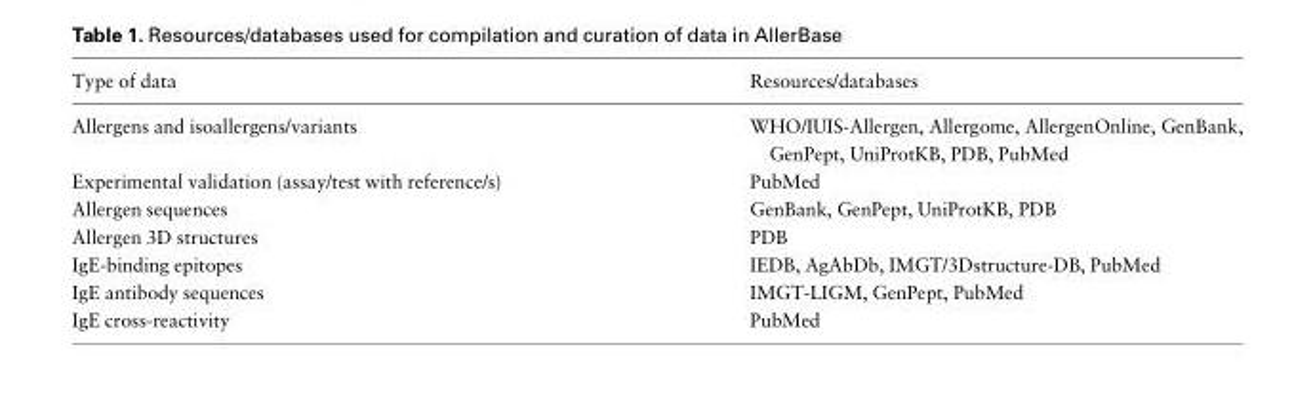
<table><thead><tr><td>Type of data</td><td>Resources/databases</td></tr></thead><tbody><tr><td>Allergens and isoallergens/variants</td><td>WHO/IUIS-Allergen, Allergome, AllergenOnline, GenBank, GenPept, UniProtKB, PDB, PubMed</td></tr><tr><td>Experimental validation (assay/test with reference/s)</td><td>PubMed</td></tr><tr><td>Allergen sequences</td><td>GenBank, GenPept, UniProtKB, PDB</td></tr><tr><td>Allergen 3D structures</td><td>PDB</td></tr><tr><td>IgE-binding epitopes</td><td>IEDB, AgAbDb, IMGT/3Dstructure-DB, PubMed</td></tr><tr><td>IgE antibody sequences</td><td>IMGT-LIGM, GenPept, PubMed</td></tr><tr><td>IgE cross-reactivity</td><td>PubMed</td></tr></tbody></table>